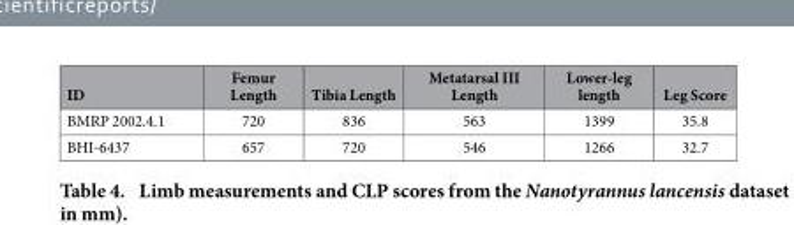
<table><thead><tr><td>ID</td><td>Femur Length</td><td>Tibia Length</td><td>Metatarsal III Length</td><td>Lower-leg length</td><td>Leg Score</td></tr></thead><tbody><tr><td>BMRP 2002.4.1</td><td>720</td><td>836</td><td>563</td><td>1399</td><td>35.8</td></tr><tr><td>BHI-6437</td><td>657</td><td>720</td><td>546</td><td>1266</td><td>32.7</td></tr></tbody></table>